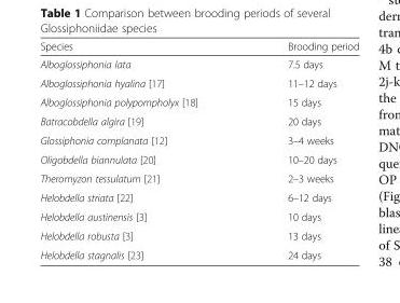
<table><thead><tr><td>Species</td><td>Brooding period</td></tr></thead><tbody><tr><td>Alboglossiphonia lata</td><td>7.5 days</td></tr><tr><td>Alboglossiphonia hyalina [17]</td><td>11–12 days</td></tr><tr><td>Alboglossiphonia polypompholyx [18]</td><td>15 days</td></tr><tr><td>Batracobdella algira [19]</td><td>20 days</td></tr><tr><td>Glossiphonia complanata [12]</td><td>3–4 weeks</td></tr><tr><td>Oligobdella biannulata [20]</td><td>10–20 days</td></tr><tr><td>Theromyzon tessulatum [21]</td><td>2–3 weeks</td></tr><tr><td>Helobdella striata [22]</td><td>6–12 days</td></tr><tr><td>Helobdella austinensis [3]</td><td>10 days</td></tr><tr><td>Helobdella robusta [3]</td><td>13 days</td></tr><tr><td>Helobdella stagnalis [23]</td><td>24 days</td></tr></tbody></table>